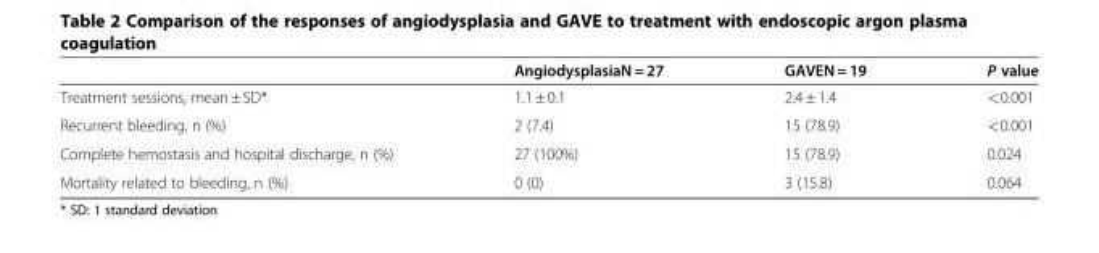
<table><thead><tr><td></td><td>AngiodysplasiaN = 27</td><td>GAVEN = 19</td><td>P value</td></tr></thead><tbody><tr><td>Treatment sessions, mean ± SD*</td><td>1.1 ± 0.1</td><td>2.4 ± 1.4</td><td>&lt;0.001</td></tr><tr><td>Recurrent bleeding, n (%)</td><td>2 (7.4)</td><td>15 (78.9)</td><td>&lt;0.001</td></tr><tr><td>Complete hemostasis and hospital discharge, n (%)</td><td>27 (100%)</td><td>15 (78.9)</td><td>0.024</td></tr><tr><td>Mortality related to bleeding, n (%)</td><td>0 (0)</td><td>3 (15.8)</td><td>0.064</td></tr></tbody></table>